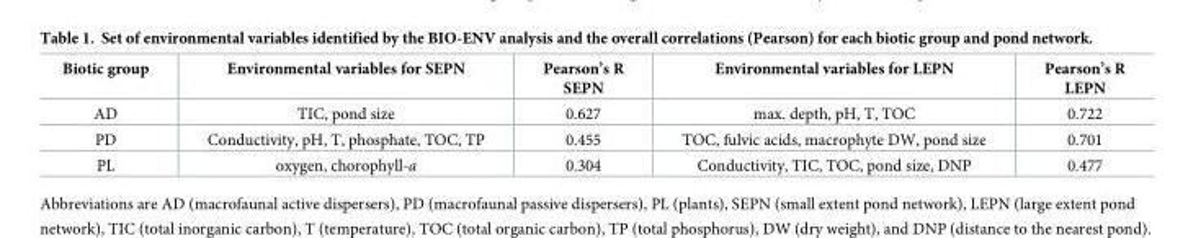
<table><thead><tr><td>Biotic group</td><td>Environmental variables for SEPN</td><td>Pearson’s R SEPN</td><td>Environmental variables for LEPN</td><td>Pearson’s R LEPN</td></tr></thead><tbody><tr><td>AD</td><td>TIC, pond size</td><td>0.627</td><td>max. depth, pH, T, TOC</td><td>0.722</td></tr><tr><td>PD</td><td>Conductivity, pH, T, phosphate, TOC, TP</td><td>0.455</td><td>TOC, fulvic acids, macrophyte DW, pond size</td><td>0.701</td></tr><tr><td>PL</td><td>oxygen, chorophyll-a</td><td>0.304</td><td>Conductivity, TIC, TOC, pond size, DNP</td><td>0.477</td></tr></tbody></table>